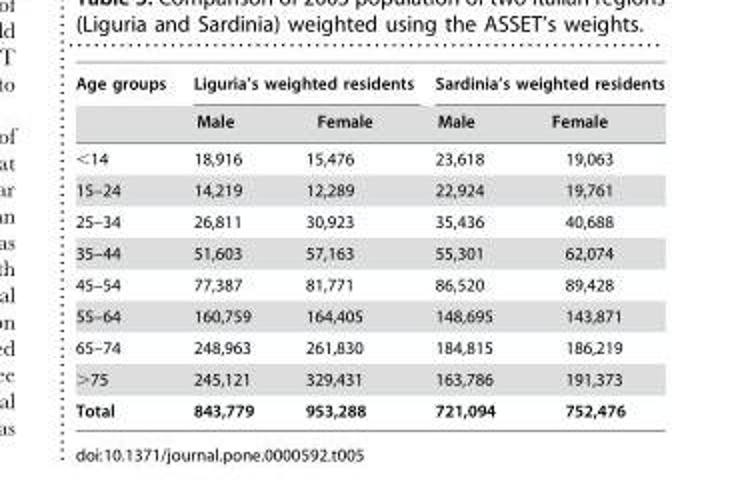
<table><thead><tr><td rowspan="2">Age groups</td><td colspan="2">Liguria’s weighted residents</td><td colspan="2">Sardinia’s weighted residents</td></tr><tr><td>Male</td><td>Female</td><td>Male</td><td>Female</td></tr></thead><tbody><tr><td>&lt;14</td><td>18,916</td><td>15,476</td><td>23,618</td><td>19,063</td></tr><tr><td>15–24</td><td>14,219</td><td>12,289</td><td>22,924</td><td>19,761</td></tr><tr><td>25–34</td><td>26,811</td><td>30,923</td><td>35,436</td><td>40,688</td></tr><tr><td>35–44</td><td>51,603</td><td>57,163</td><td>55,301</td><td>62,074</td></tr><tr><td>45–54</td><td>77,387</td><td>81,771</td><td>86,520</td><td>89,428</td></tr><tr><td>55–64</td><td>160,759</td><td>164,405</td><td>148,695</td><td>143,871</td></tr><tr><td>65–74</td><td>248,963</td><td>261,830</td><td>184,815</td><td>186,219</td></tr><tr><td>&gt;75</td><td>245,121</td><td>329,431</td><td>163,786</td><td>191,373</td></tr><tr><td>Total</td><td>843,779</td><td>953,288</td><td>721,094</td><td>752,476</td></tr></tbody></table>